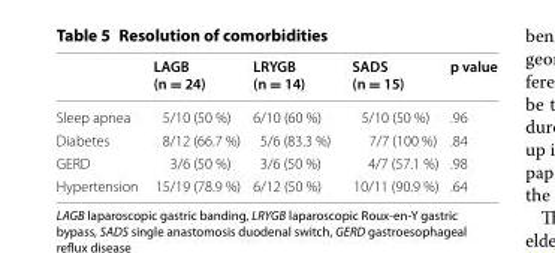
<table><thead><tr><td></td><td>LAGB (n = 24)</td><td>LRYGB (n = 14)</td><td>SADS (n = 15)</td><td>p value</td></tr></thead><tbody><tr><td>Sleep apnea</td><td>5/10 (50 %)</td><td>6/10 (60 %)</td><td>5/10 (50 %)</td><td>.96</td></tr><tr><td>Diabetes</td><td>8/12 (66.7 %)</td><td>5/6 (83.3 %)</td><td>7/7 (100 %)</td><td>.84</td></tr><tr><td>GERD</td><td>3/6 (50 %)</td><td>3/6 (50 %)</td><td>4/7 (57.1 %)</td><td>.98</td></tr><tr><td>Hypertension</td><td>15/19 (78.9 %)</td><td>6/12 (50 %)</td><td>10/11 (90.9 %)</td><td>.64</td></tr></tbody></table>